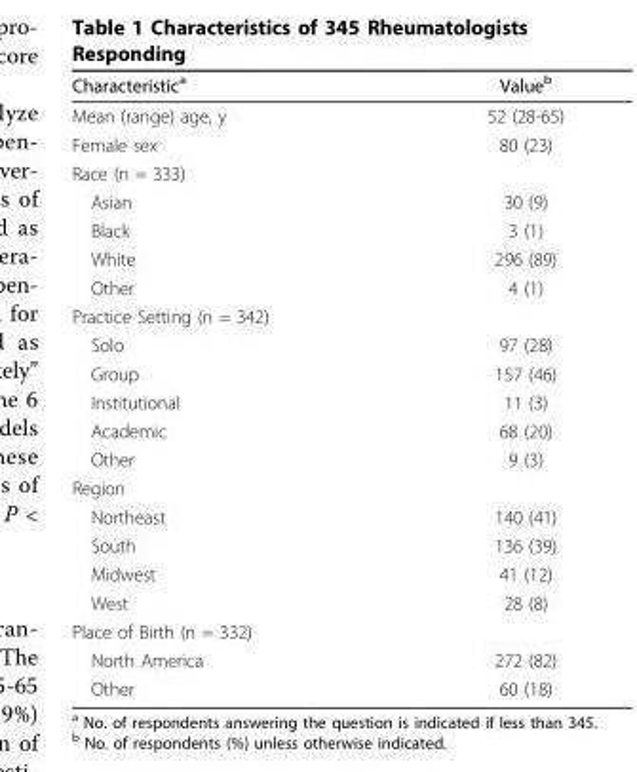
<table><thead><tr><td>Characteristic<sup>a</sup></td><td>Value<sup>b</sup></td></tr></thead><tbody><tr><td>Mean (range) age, y</td><td>52 (28-65)</td></tr><tr><td>Female sex</td><td>80 (23)</td></tr><tr><td colspan="2">Race (n = 333)</td></tr><tr><td>Asian</td><td>30 (9)</td></tr><tr><td>Black</td><td>3 (1)</td></tr><tr><td>White</td><td>296 (89)</td></tr><tr><td>Other</td><td>4 (1)</td></tr><tr><td colspan="2">Practice Setting (n = 342)</td></tr><tr><td>Solo</td><td>97 (28)</td></tr><tr><td>Group</td><td>157 (46)</td></tr><tr><td>Institutional</td><td>11 (3)</td></tr><tr><td>Academic</td><td>68 (20)</td></tr><tr><td>Other</td><td>9 (3)</td></tr><tr><td colspan="2">Region</td></tr><tr><td>Northeast</td><td>140 (41)</td></tr><tr><td>South</td><td>136 (39)</td></tr><tr><td>Midwest</td><td>41 (12)</td></tr><tr><td>West</td><td>28 (8)</td></tr><tr><td colspan="2">Place of Birth (n = 332)</td></tr><tr><td>North America</td><td>272 (82)</td></tr><tr><td>Other</td><td>60 (18)</td></tr></tbody></table>